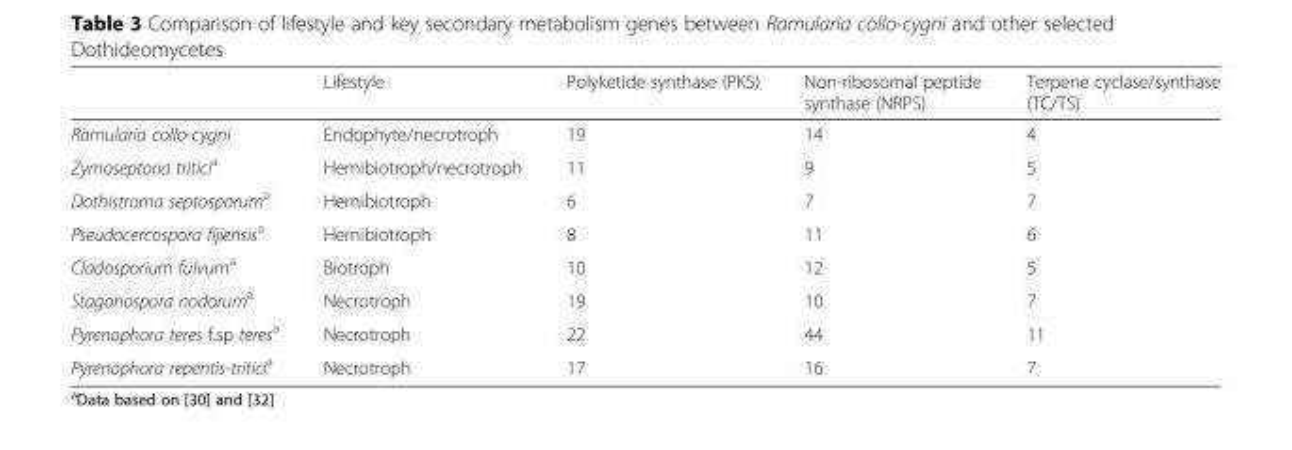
<table><thead><tr><td></td><td>Lifestyle</td><td>Polyketide synthase (PKS)</td><td>Non-ribosomal peptide synthase (NRPS)</td><td>Terpene cyclase/synthase (TC/TS)</td></tr></thead><tbody><tr><td>Ramularia collo-cygni</td><td>Endophyte/necrotroph</td><td>19</td><td>14</td><td>4</td></tr><tr><td>Zymoseptoria tritici<sup>a</sup></td><td>Hemibiotroph/necrotroph</td><td>11</td><td>9</td><td>5</td></tr><tr><td>Dothistroma septosporum<sup>a</sup></td><td>Hemibiotroph</td><td>6</td><td>7</td><td>7</td></tr><tr><td>Pseudocercospora fijiensis<sup>a</sup></td><td>Hemibiotroph</td><td>8</td><td>11</td><td>6</td></tr><tr><td>Cladosporium fulvum<sup>a</sup></td><td>Biotroph</td><td>10</td><td>12</td><td>5</td></tr><tr><td>Stagonospora nodorum<sup>a</sup></td><td>Necrotroph</td><td>19</td><td>10</td><td>7</td></tr><tr><td>Pyrenophora teres f.sp teres<sup>a</sup></td><td>Necrotroph</td><td>22</td><td>44</td><td>11</td></tr><tr><td>Pyrenophora repentis-tritici<sup>a</sup></td><td>Necrotroph</td><td>17</td><td>16</td><td>7</td></tr></tbody></table>